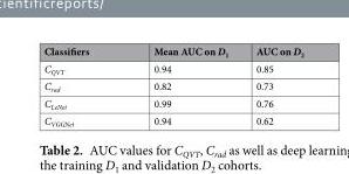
<table><thead><tr><td>Classifiers</td><td>Mean AUC on D<sub>1</sub></td><td>AUC on D<sub>2</sub></td></tr></thead><tbody><tr><td>C<sub>QVT</sub></td><td>0.94</td><td>0.85</td></tr><tr><td>C<sub>rad</sub></td><td>0.82</td><td>0.73</td></tr><tr><td>C<sub>LeNet</sub></td><td>0.99</td><td>0.76</td></tr><tr><td>C<sub>VGGNet</sub></td><td>0.94</td><td>0.62</td></tr></tbody></table>